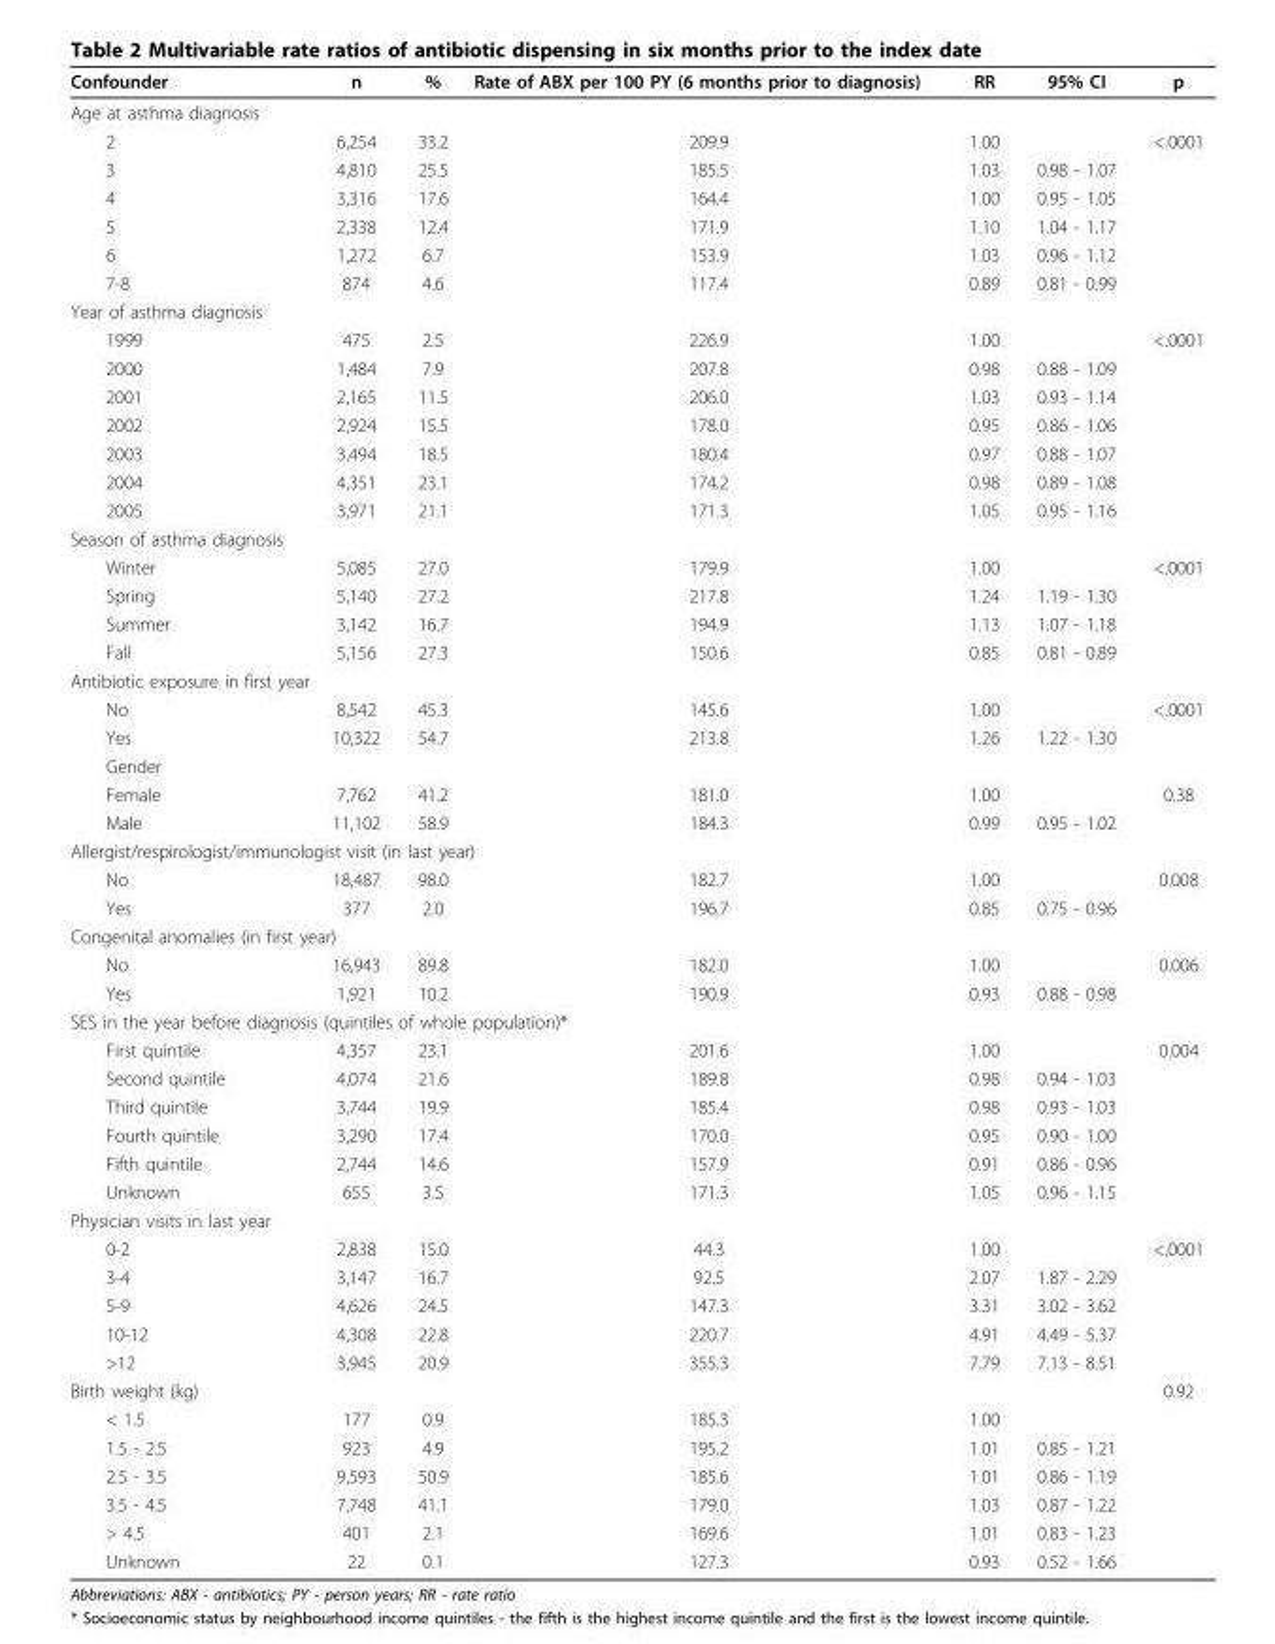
<table><thead><tr><td>Confounder</td><td>n</td><td>%</td><td>Rate of ABX per 100 PY (6 months prior to diagnosis)</td><td>RR</td><td>95% CI</td><td>p</td></tr></thead><tbody><tr><td colspan="7">Age at asthma diagnosis</td></tr><tr><td>2</td><td>6,254</td><td>33.2</td><td>209.9</td><td>1.00</td><td></td><td>&lt;.0001</td></tr><tr><td>3</td><td>4,810</td><td>25.5</td><td>185.5</td><td>1.03</td><td>0.98 - 1.07</td><td></td></tr><tr><td>4</td><td>3,316</td><td>17.6</td><td>164.4</td><td>1.00</td><td>0.95 - 1.05</td><td></td></tr><tr><td>5</td><td>2,338</td><td>12.4</td><td>171.9</td><td>1.10</td><td>1.04 - 1.17</td><td></td></tr><tr><td>6</td><td>1,272</td><td>6.7</td><td>153.9</td><td>1.03</td><td>0.96 - 1.12</td><td></td></tr><tr><td>7-8</td><td>874</td><td>4.6</td><td>117.4</td><td>0.89</td><td>0.81 - 0.99</td><td></td></tr><tr><td colspan="7">Year of asthma diagnosis</td></tr><tr><td>1999</td><td>475</td><td>2.5</td><td>226.9</td><td>1.00</td><td></td><td>&lt;.0001</td></tr><tr><td>2000</td><td>1,484</td><td>7.9</td><td>207.8</td><td>0.98</td><td>0.88 - 1.09</td><td></td></tr><tr><td>2001</td><td>2,165</td><td>11.5</td><td>206.0</td><td>1.03</td><td>0.93 - 1.14</td><td></td></tr><tr><td>2002</td><td>2,924</td><td>15.5</td><td>178.0</td><td>0.95</td><td>0.86 - 1.06</td><td></td></tr><tr><td>2003</td><td>3,494</td><td>18.5</td><td>180.4</td><td>0.97</td><td>0.88 - 1.07</td><td></td></tr><tr><td>2004</td><td>4,351</td><td>23.1</td><td>174.2</td><td>0.98</td><td>0.89 - 1.08</td><td></td></tr><tr><td>2005</td><td>3,971</td><td>21.1</td><td>171.3</td><td>1.05</td><td>0.95 - 1.16</td><td></td></tr><tr><td colspan="7">Season of asthma diagnosis</td></tr><tr><td>Winter</td><td>5,085</td><td>27.0</td><td>179.9</td><td>1.00</td><td></td><td>&lt;.0001</td></tr><tr><td>Spring</td><td>5,140</td><td>27.2</td><td>217.8</td><td>1.24</td><td>1.19 - 1.30</td><td></td></tr><tr><td>Summer</td><td>3,142</td><td>16.7</td><td>194.9</td><td>1.13</td><td>1.07 - 1.18</td><td></td></tr><tr><td>Fall</td><td>5,156</td><td>27.3</td><td>150.6</td><td>0.85</td><td>0.81 - 0.89</td><td></td></tr><tr><td colspan="7">Antibiotic exposure in first year</td></tr><tr><td>No</td><td>8,542</td><td>45.3</td><td>145.6</td><td>1.00</td><td></td><td>&lt;.0001</td></tr><tr><td>Yes</td><td>10,322</td><td>54.7</td><td>213.8</td><td>1.26</td><td>1.22 - 1.30</td><td></td></tr><tr><td colspan="7">Gender</td></tr><tr><td>Female</td><td>7,762</td><td>41.2</td><td>181.0</td><td>1.00</td><td></td><td>0.38</td></tr><tr><td>Male</td><td>11,102</td><td>58.9</td><td>184.3</td><td>0.99</td><td>0.95 - 1.02</td><td></td></tr><tr><td colspan="7">Allergist/respirologist/immunologist visit (in last year)</td></tr><tr><td>No</td><td>18,487</td><td>98.0</td><td>182.7</td><td>1.00</td><td></td><td>0.008</td></tr><tr><td>Yes</td><td>377</td><td>2.0</td><td>196.7</td><td>0.85</td><td>0.75 - 0.96</td><td></td></tr><tr><td colspan="7">Congenital anomalies (in first year)</td></tr><tr><td>No</td><td>16,943</td><td>89.8</td><td>182.0</td><td>1.00</td><td></td><td>0.006</td></tr><tr><td>Yes</td><td>1,921</td><td>10.2</td><td>190.9</td><td>0.93</td><td>0.88 - 0.98</td><td></td></tr><tr><td colspan="7">SES in the year before diagnosis (quintiles of whole population)*</td></tr><tr><td>First quintile</td><td>4,357</td><td>23.1</td><td>201.6</td><td>1.00</td><td></td><td>0.004</td></tr><tr><td>Second quintile</td><td>4,074</td><td>21.6</td><td>189.8</td><td>0.98</td><td>0.94 - 1.03</td><td></td></tr><tr><td>Third quintile</td><td>3,744</td><td>19.9</td><td>185.4</td><td>0.98</td><td>0.93 - 1.03</td><td></td></tr><tr><td>Fourth quintile</td><td>3,290</td><td>17.4</td><td>170.0</td><td>0.95</td><td>0.90 - 1.00</td><td></td></tr><tr><td>Fifth quintile</td><td>2,744</td><td>14.6</td><td>157.9</td><td>0.91</td><td>0.86 - 0.96</td><td></td></tr><tr><td>Unknown</td><td>655</td><td>3.5</td><td>171.3</td><td>1.05</td><td>0.96 - 1.15</td><td></td></tr><tr><td colspan="7">Physician visits in last year</td></tr><tr><td>0-2</td><td>2,838</td><td>15.0</td><td>44.3</td><td>1.00</td><td></td><td>&lt;.0001</td></tr><tr><td>3-4</td><td>3,147</td><td>16.7</td><td>92.5</td><td>2.07</td><td>1.87 - 2.29</td><td></td></tr><tr><td>5-9</td><td>4,626</td><td>24.5</td><td>147.3</td><td>3.31</td><td>3.02 - 3.62</td><td></td></tr><tr><td>10-12</td><td>4,308</td><td>22.8</td><td>220.7</td><td>4.91</td><td>4.49 - 5.37</td><td></td></tr><tr><td>&gt;12</td><td>3,945</td><td>20.9</td><td>355.3</td><td>7.79</td><td>7.13 - 8.51</td><td></td></tr><tr><td>Birth weight (kg)</td><td></td><td></td><td></td><td></td><td></td><td>0.92</td></tr><tr><td>&lt; 1.5</td><td>177</td><td>0.9</td><td>185.3</td><td>1.00</td><td></td><td></td></tr><tr><td>1.5 - 2.5</td><td>923</td><td>4.9</td><td>195.2</td><td>1.01</td><td>0.85 - 1.21</td><td></td></tr><tr><td>2.5 - 3.5</td><td>9,593</td><td>50.9</td><td>185.6</td><td>1.01</td><td>0.86 - 1.19</td><td></td></tr><tr><td>3.5 - 4.5</td><td>7,748</td><td>41.1</td><td>179.0</td><td>1.03</td><td>0.87 - 1.22</td><td></td></tr><tr><td>&gt; 4.5</td><td>401</td><td>2.1</td><td>169.6</td><td>1.01</td><td>0.83 - 1.23</td><td></td></tr><tr><td>Unknown</td><td>22</td><td>0.1</td><td>127.3</td><td>0.93</td><td>0.52 - 1.66</td><td></td></tr></tbody></table>